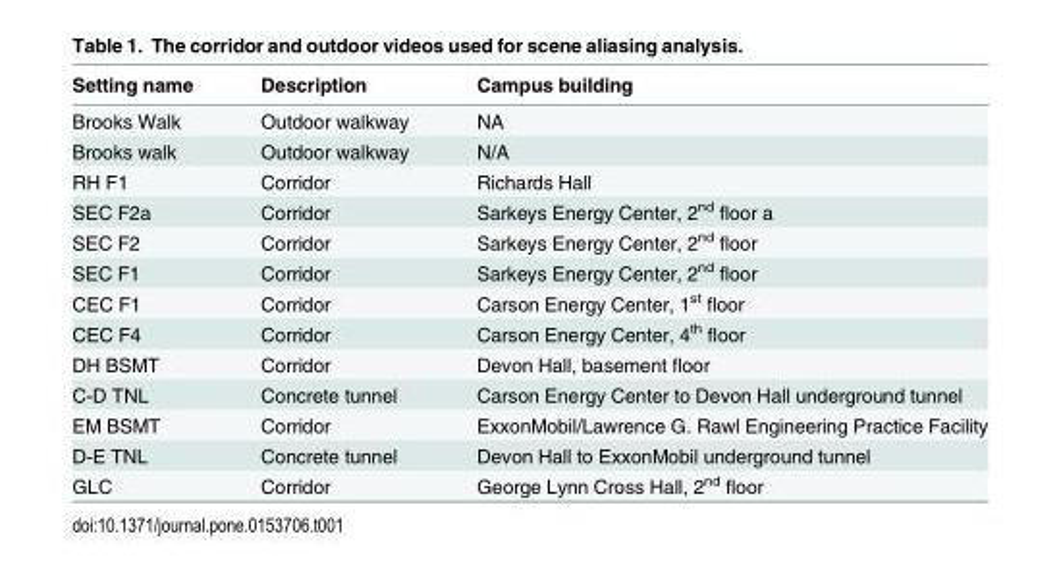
<table><thead><tr><td>Setting name</td><td>Description</td><td>Campus building</td></tr></thead><tbody><tr><td>Brooks Walk</td><td>Outdoor walkway</td><td>NA</td></tr><tr><td>Brooks walk</td><td>Outdoor walkway</td><td>N/A</td></tr><tr><td>RH F1</td><td>Corridor</td><td>Richards Hall</td></tr><tr><td>SEC F2a</td><td>Corridor</td><td>Sarkeys Energy Center, 2<sup>nd</sup> floor a</td></tr><tr><td>SEC F2</td><td>Corridor</td><td>Sarkeys Energy Center, 2<sup>nd</sup> floor</td></tr><tr><td>SEC F1</td><td>Corridor</td><td>Sarkeys Energy Center, 2<sup>nd</sup> floor</td></tr><tr><td>CEC F1</td><td>Corridor</td><td>Carson Energy Center, 1<sup>st</sup> floor</td></tr><tr><td>CEC F4</td><td>Corridor</td><td>Carson Energy Center, 4<sup>th</sup> floor</td></tr><tr><td>DH BSMT</td><td>Corridor</td><td>Devon Hall, basement floor</td></tr><tr><td>C-D TNL</td><td>Concrete tunnel</td><td>Carson Energy Center to Devon Hall underground tunnel</td></tr><tr><td>EM BSMT</td><td>Corridor</td><td>ExxonMobil/Lawrence G. Rawl Engineering Practice Facility</td></tr><tr><td>D-E TNL</td><td>Concrete tunnel</td><td>Devon Hall to ExxonMobil underground tunnel</td></tr><tr><td>GLC</td><td>Corridor</td><td>George Lynn Cross Hall, 2<sup>nd</sup> floor</td></tr></tbody></table>